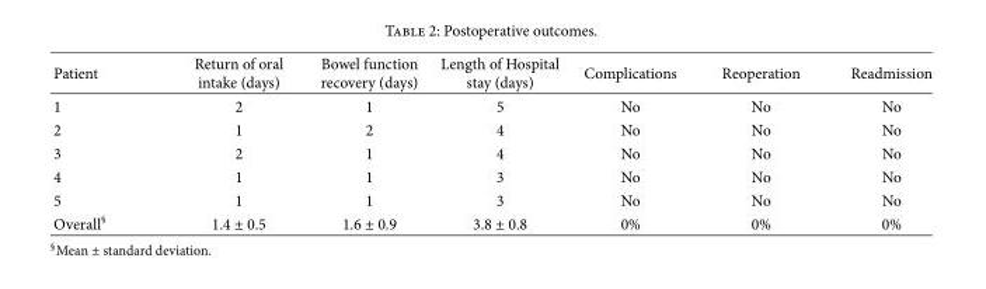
<table><thead><tr><td>Patient</td><td>Return of oral intake (days)</td><td>Bowel function recovery (days)</td><td>Length of Hospital stay (days)</td><td>Complications</td><td>Reoperation</td><td>Readmission</td></tr></thead><tbody><tr><td>1</td><td>2</td><td>1</td><td>5</td><td>No</td><td>No</td><td>No</td></tr><tr><td>2</td><td>1</td><td>2</td><td>4</td><td>No</td><td>No</td><td>No</td></tr><tr><td>3</td><td>2</td><td>1</td><td>4</td><td>No</td><td>No</td><td>No</td></tr><tr><td>4</td><td>1</td><td>1</td><td>3</td><td>No</td><td>No</td><td>No</td></tr><tr><td>5</td><td>1</td><td>1</td><td>3</td><td>No</td><td>No</td><td>No</td></tr><tr><td>Overall<sup>§</sup></td><td>1.4 ± 0.5</td><td>1.6 ± 0.9</td><td>3.8 ± 0.8</td><td>0%</td><td>0%</td><td>0%</td></tr></tbody></table>